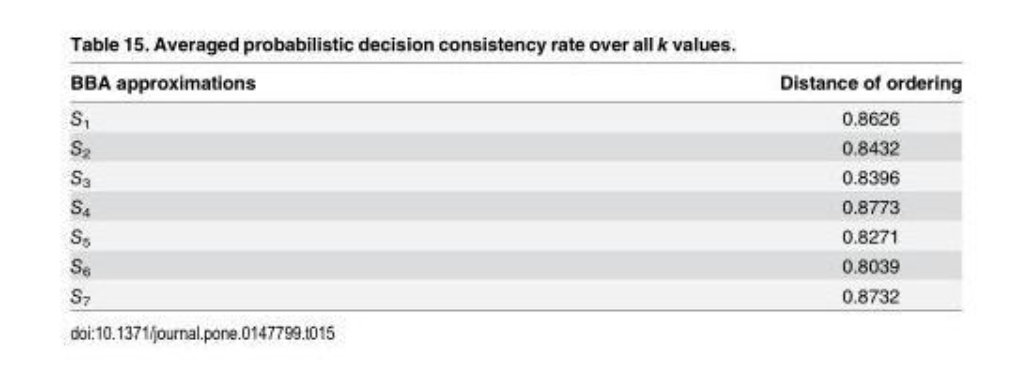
<table><thead><tr><td>BBA approximations</td><td>Distance of ordering</td></tr></thead><tbody><tr><td>S<sub>1</sub></td><td>0.8626</td></tr><tr><td>S<sub>2</sub></td><td>0.8432</td></tr><tr><td>S<sub>3</sub></td><td>0.8396</td></tr><tr><td>S<sub>4</sub></td><td>0.8773</td></tr><tr><td>S<sub>5</sub></td><td>0.8271</td></tr><tr><td>S<sub>6</sub></td><td>0.8039</td></tr><tr><td>S<sub>7</sub></td><td>0.8732</td></tr></tbody></table>